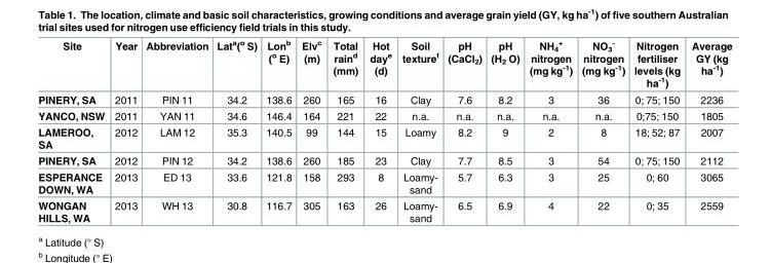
<table><thead><tr><td>Site</td><td>Year</td><td>Abbreviation</td><td>Lat<sup>a</sup>(<sup>o</sup> S)</td><td>Lon<sup>b</sup> (<sup>o</sup> E)</td><td>Elv<sup>c</sup> (m)</td><td>Total rain<sup>d</sup> (mm)</td><td>Hot day<sup>e</sup> (d)</td><td>Soil texture<sup>f</sup></td><td>pH (CaCl<sub>2</sub>)</td><td>pH (H<sub>2</sub> O)</td><td>NH<sub>4</sub> <sup>+</sup> nitrogen (mg kg<sup>-1</sup>)</td><td>NO<sub>3</sub> <sup>-</sup> nitrogen (mg kg<sup>-1</sup>)</td><td>Nitrogen fertiliser levels (kg ha<sup>-1</sup>)</td><td>Average GY (kg ha<sup>-1</sup>)</td></tr></thead><tbody><tr><td>PINERY, SA</td><td>2011</td><td>PIN 11</td><td>34.2</td><td>138.6</td><td>260</td><td>165</td><td>16</td><td>Clay</td><td>7.6</td><td>8.2</td><td>3</td><td>36</td><td>0; 75; 150</td><td>2236</td></tr><tr><td>YANCO, NSW</td><td>2011</td><td>YAN 11</td><td>34.6</td><td>146.4</td><td>164</td><td>221</td><td>22</td><td>n.a.</td><td>n.a.</td><td>n.a.</td><td>n.a.</td><td>n.a.</td><td>0;75; 150</td><td>1805</td></tr><tr><td>LAMEROO, SA</td><td>2012</td><td>LAM 12</td><td>35.3</td><td>140.5</td><td>99</td><td>144</td><td>15</td><td>Loamy</td><td>8.2</td><td>9</td><td>2</td><td>8</td><td>18; 52; 87</td><td>2007</td></tr><tr><td>PINERY, SA</td><td>2012</td><td>PIN 12</td><td>34.2</td><td>138.6</td><td>260</td><td>185</td><td>23</td><td>Clay</td><td>7.7</td><td>8.5</td><td>3</td><td>54</td><td>0; 75; 150</td><td>2112</td></tr><tr><td>ESPERANCE DOWN, WA</td><td>2013</td><td>ED 13</td><td>33.6</td><td>121.8</td><td>158</td><td>293</td><td>8</td><td>Loamy- sand</td><td>5.7</td><td>6.3</td><td>3</td><td>25</td><td>0; 60</td><td>3065</td></tr><tr><td>WONGAN HILLS, WA</td><td>2013</td><td>WH 13</td><td>30.8</td><td>116.7</td><td>305</td><td>163</td><td>26</td><td>Loamy- sand</td><td>6.5</td><td>6.9</td><td>4</td><td>22</td><td>0; 35</td><td>2559</td></tr></tbody></table>